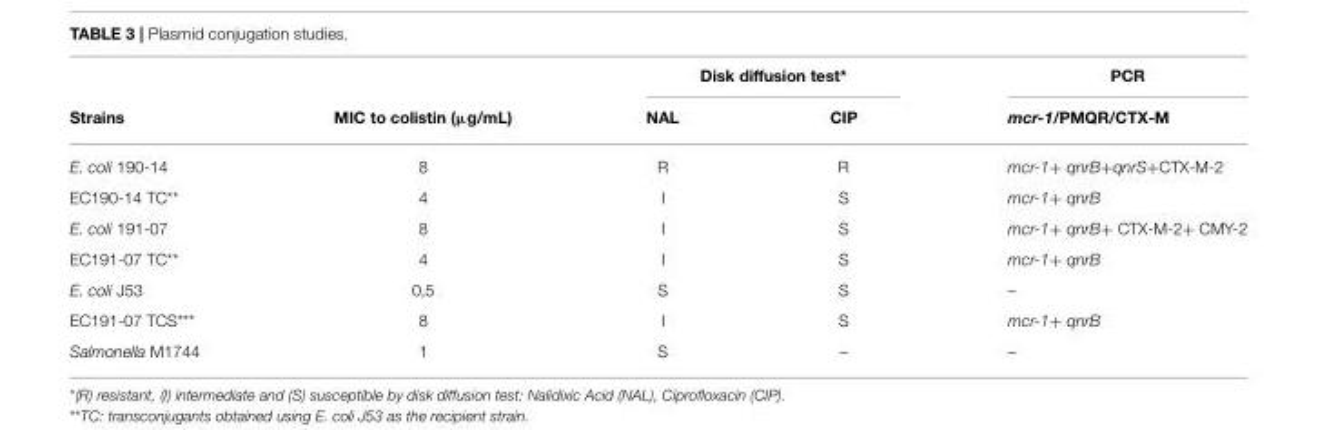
<table><thead><tr><td rowspan="2">Strains</td><td rowspan="2">MIC to colistin (µg/mL)</td><td colspan="2">Disk diffusion test*</td><td rowspan="2">PCR mcr-1/PMQR/CTX-M</td></tr><tr><td>NAL</td><td>CIP</td></tr></thead><tbody><tr><td>E. coli 190-14</td><td>8</td><td>R</td><td>R</td><td>mcr-1+ qnrB+qnrS+CTX-M-2</td></tr><tr><td>EC190-14 TC**</td><td>4</td><td>I</td><td>S</td><td>mcr-1+ qnrB</td></tr><tr><td>E. coli 191-07</td><td>8</td><td>I</td><td>S</td><td>mcr-1+ qnrB+ CTX-M-2+ CMY-2</td></tr><tr><td>EC191-07 TC**</td><td>4</td><td>I</td><td>S</td><td>mcr-1+ qnrB</td></tr><tr><td>E. coli J53</td><td>0,5</td><td>S</td><td>S</td><td>–</td></tr><tr><td>EC191-07 TCS***</td><td>8</td><td>I</td><td>S</td><td>mcr-1+ qnrB</td></tr><tr><td>Salmonella M1744</td><td>1</td><td>S</td><td>–</td><td>–</td></tr></tbody></table>